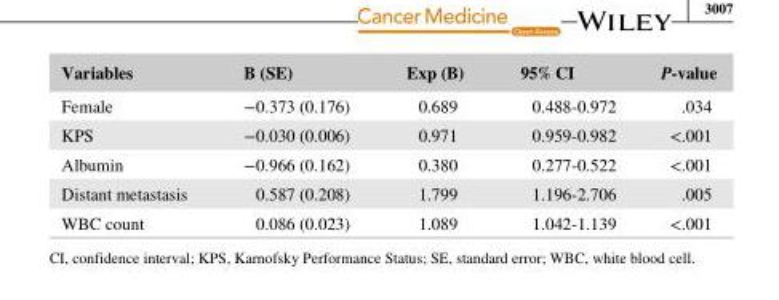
<table><thead><tr><td>Variables</td><td>B (SE)</td><td>Exp (B)</td><td>95% CI</td><td>P- value</td></tr></thead><tbody><tr><td>Female</td><td>−0.373 (0.176)</td><td>0.689</td><td>0.488- 0.972</td><td>.034</td></tr><tr><td>KPS</td><td>−0.030 (0.006)</td><td>0.971</td><td>0.959- 0.982</td><td>&lt;.001</td></tr><tr><td>Albumin</td><td>−0.966 (0.162)</td><td>0.380</td><td>0.277- 0.522</td><td>&lt;.001</td></tr><tr><td>Distant metastasis</td><td>0.587 (0.208)</td><td>1.799</td><td>1.196- 2.706</td><td>.005</td></tr><tr><td>WBC count</td><td>0.086 (0.023)</td><td>1.089</td><td>1.042- 1.139</td><td>&lt;.001</td></tr></tbody></table>